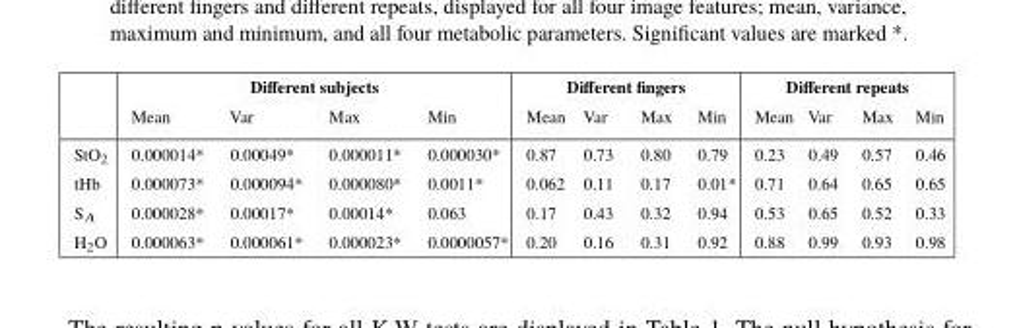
<table><thead><tr><td rowspan="2"></td><td colspan="4">Different subjects</td><td colspan="4">Different fingers</td><td colspan="4">Different repeats</td></tr><tr><td>Mean</td><td>Var</td><td>Max</td><td>Min</td><td>Mean</td><td>Var</td><td>Max</td><td>Min</td><td>Mean</td><td>Var</td><td>Max</td><td>Min</td></tr></thead><tbody><tr><td>StO<sub>2</sub></td><td>0.000014*</td><td>0.00049*</td><td>0.000011*</td><td>0.000030*</td><td>0.87</td><td>0.73</td><td>0.80</td><td>0.79</td><td>0.23</td><td>0.49</td><td>0.57</td><td>0.46</td></tr><tr><td>tHb</td><td>0.000073*</td><td>0.000094*</td><td>0.000080*</td><td>0.0011*</td><td>0.062</td><td>0.11</td><td>0.17</td><td>0.01*</td><td>0.71</td><td>0.64</td><td>0.65</td><td>0.65</td></tr><tr><td>S<sub>A</sub></td><td>0.000028*</td><td>0.00017*</td><td>0.00014*</td><td>0.063</td><td>0.17</td><td>0.43</td><td>0.32</td><td>0.94</td><td>0.53</td><td>0.65</td><td>0.52</td><td>0.33</td></tr><tr><td>H<sub>2</sub>O</td><td>0.000063*</td><td>0.000061*</td><td>0.000023*</td><td>0.0000057*</td><td>0.20</td><td>0.16</td><td>0.31</td><td>0.92</td><td>0.88</td><td>0.99</td><td>0.93</td><td>0.98</td></tr></tbody></table>